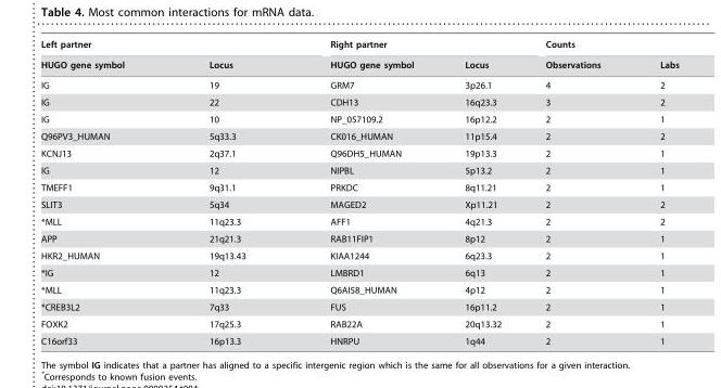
<table><thead><tr><td colspan="2">Left partner</td><td colspan="2">Right partner</td><td colspan="2">Counts</td></tr><tr><td>HUGO gene symbol</td><td>Locus</td><td>HUGO gene symbol</td><td>Locus</td><td>Observations</td><td>Labs</td></tr></thead><tbody><tr><td>IG</td><td>19</td><td>GRM7</td><td>3p26.1</td><td>4</td><td>2</td></tr><tr><td>IG</td><td>22</td><td>CDH13</td><td>16q23.3</td><td>3</td><td>2</td></tr><tr><td>IG</td><td>10</td><td>NP_057109.2</td><td>16p12.2</td><td>2</td><td>1</td></tr><tr><td>Q96PV3_HUMAN</td><td>5q33.3</td><td>CK016_HUMAN</td><td>11p15.4</td><td>2</td><td>2</td></tr><tr><td>KCNJ13</td><td>2q37.1</td><td>Q96DH5_HUMAN</td><td>19p13.3</td><td>2</td><td>1</td></tr><tr><td>IG</td><td>12</td><td>NIPBL</td><td>5p13.2</td><td>2</td><td>1</td></tr><tr><td>TMEFF1</td><td>9q31.1</td><td>PRKDC</td><td>8q11.21</td><td>2</td><td>1</td></tr><tr><td>SLIT3</td><td>5q34</td><td>MAGED2</td><td>Xp11.21</td><td>2</td><td>2</td></tr><tr><td>*MLL</td><td>11q23.3</td><td>AFF1</td><td>4q21.3</td><td>2</td><td>2</td></tr><tr><td>APP</td><td>21q21.3</td><td>RAB11FIP1</td><td>8p12</td><td>2</td><td>1</td></tr><tr><td>HKR2_HUMAN</td><td>19q13.43</td><td>KIAA1244</td><td>6q23.3</td><td>2</td><td>1</td></tr><tr><td>*IG</td><td>12</td><td>LMBRD1</td><td>6q13</td><td>2</td><td>1</td></tr><tr><td>*MLL</td><td>11q23.3</td><td>Q6AI58_HUMAN</td><td>4p12</td><td>2</td><td>1</td></tr><tr><td>*CREB3L2</td><td>7q33</td><td>FUS</td><td>16p11.2</td><td>2</td><td>1</td></tr><tr><td>FOXK2</td><td>17q25.3</td><td>RAB22A</td><td>20q13.32</td><td>2</td><td>1</td></tr><tr><td>C16orf33</td><td>16p13.3</td><td>HNRPU</td><td>1q44</td><td>2</td><td>1</td></tr></tbody></table>